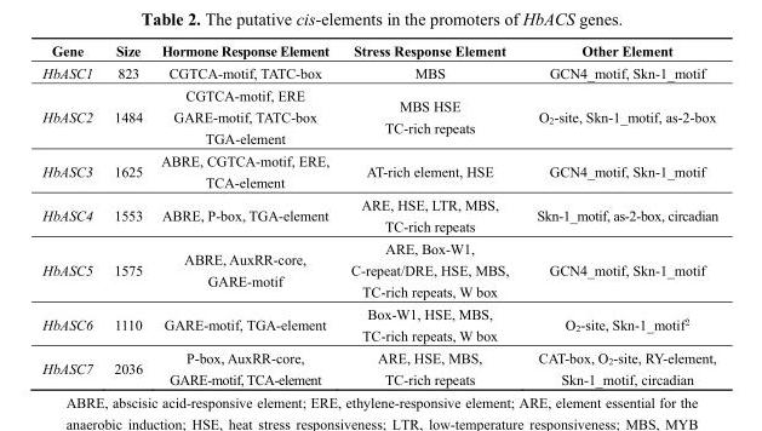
<table><thead><tr><td>Gene</td><td>Size</td><td>Hormone Response Element</td><td>Stress Response Element</td><td>Other Element</td></tr></thead><tbody><tr><td>HbASC1</td><td>823</td><td>CGTCA-motif, TATC-box</td><td>MBS</td><td>GCN4_motif, Skn-1_motif</td></tr><tr><td>HbASC2</td><td>1484</td><td>CGTCA-motif, ERE GARE-motif, TATC-box TGA-element</td><td>MBS HSE TC-rich repeats</td><td>O<sub>2</sub>-site, Skn-1_motif, as-2-box</td></tr><tr><td>HbASC3</td><td>1625</td><td>ABRE, CGTCA-motif, ERE, TCA-element</td><td>AT-rich element, HSE</td><td>GCN4_motif, Skn-1_motif</td></tr><tr><td>HbASC4</td><td>1553</td><td>ABRE, P-box, TGA-element</td><td>ARE, HSE, LTR, MBS, TC-rich repeats</td><td>Skn-1_motif, as-2-box, circadian</td></tr><tr><td>HbASC5</td><td>1575</td><td>ABRE, AuxRR-core, GARE-motif</td><td>ARE, Box-W1, C-repeat/DRE, HSE, MBS, TC-rich repeats, W box</td><td>GCN4_motif, Skn-1_motif</td></tr><tr><td>HbASC6</td><td>1110</td><td>GARE-motif, TGA-element</td><td>Box-W1, HSE, MBS, TC-rich repeats, W box</td><td>O<sub>2</sub>-site, Skn-1_motif<sup>2</sup></td></tr><tr><td>HbASC7</td><td>2036</td><td>P-box, AuxRR-core, GARE-motif, TCA-element</td><td>ARE, HSE, MBS, TC-rich repeats</td><td>CAT-box, O<sub>2</sub>-site, RY-element, Skn-1_motif, circadian</td></tr></tbody></table>